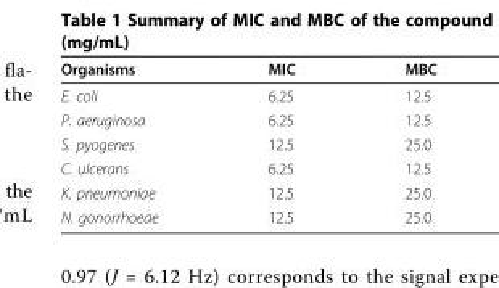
<table><thead><tr><td>Organisms</td><td>MIC</td><td>MBC</td></tr></thead><tbody><tr><td>E. coli</td><td>6.25</td><td>12.5</td></tr><tr><td>P. aeruginosa</td><td>6.25</td><td>12.5</td></tr><tr><td>S. pyogenes</td><td>12.5</td><td>25.0</td></tr><tr><td>C. ulcerans</td><td>6.25</td><td>12.5</td></tr><tr><td>K. pneumoniae</td><td>12.5</td><td>25.0</td></tr><tr><td>N. gonorrhoeae</td><td>12.5</td><td>25.0</td></tr></tbody></table>